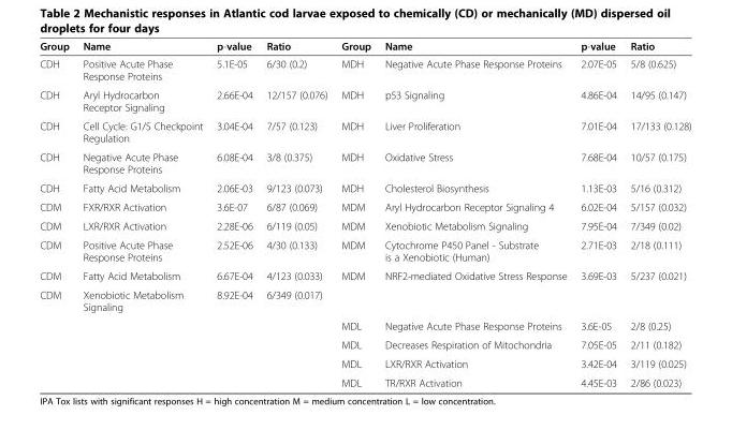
<table><thead><tr><td>Group</td><td>Name</td><td>p-value</td><td>Ratio</td><td>Group</td><td>Name</td><td>p-value</td><td>Ratio</td></tr></thead><tbody><tr><td>CDH</td><td>Positive Acute Phase Response Proteins</td><td>5.1E-05</td><td>6/30 (0.2)</td><td>MDH</td><td>Negative Acute Phase Response Proteins</td><td>2.07E-05</td><td>5/8 (0.625)</td></tr><tr><td>CDH</td><td>Aryl Hydrocarbon Receptor Signaling</td><td>2.66E-04</td><td>12/157 (0.076)</td><td>MDH</td><td>p53 Signaling</td><td>4.86E-04</td><td>14/95 (0.147)</td></tr><tr><td>CDH</td><td>Cell Cycle: G1/S Checkpoint Regulation</td><td>3.04E-04</td><td>7/57 (0.123)</td><td>MDH</td><td>Liver Proliferation</td><td>7.01E-04</td><td>17/133 (0.128)</td></tr><tr><td>CDH</td><td>Negative Acute Phase Response Proteins</td><td>6.08E-04</td><td>3/8 (0.375)</td><td>MDH</td><td>Oxidative Stress</td><td>7.68E-04</td><td>10/57 (0.175)</td></tr><tr><td>CDH</td><td>Fatty Acid Metabolism</td><td>2.06E-03</td><td>9/123 (0.073)</td><td>MDH</td><td>Cholesterol Biosynthesis</td><td>1.13E-03</td><td>5/16 (0.312)</td></tr><tr><td>CDM</td><td>FXR/RXR Activation</td><td>3.6E-07</td><td>6/87 (0.069)</td><td>MDM</td><td>Aryl Hydrocarbon Receptor Signaling 4</td><td>6.02E-04</td><td>5/157 (0.032)</td></tr><tr><td>CDM</td><td>LXR/RXR Activation</td><td>2.28E-06</td><td>6/119 (0.05)</td><td>MDM</td><td>Xenobiotic Metabolism Signaling</td><td>7.95E-04</td><td>7/349 (0.02)</td></tr><tr><td>CDM</td><td>Positive Acute Phase Response Proteins</td><td>2.52E-06</td><td>4/30 (0.133)</td><td>MDM</td><td>Cytochrome P450 Panel - Substrate is a Xenobiotic (Human)</td><td>2.71E-03</td><td>2/18 (0.111)</td></tr><tr><td>CDM</td><td>Fatty Acid Metabolism</td><td>6.67E-04</td><td>4/123 (0.033)</td><td>MDM</td><td>NRF2-mediated Oxidative Stress Response</td><td>3.69E-03</td><td>5/237 (0.021)</td></tr><tr><td rowspan="5">CDM</td><td>Xenobiotic Metabolism Signaling</td><td>8.92E-04</td><td>6/349 (0.017)</td><td></td><td></td><td></td><td></td></tr><tr><td></td><td></td><td></td><td>MDL</td><td>Negative Acute Phase Response Proteins</td><td>3.6E-05</td><td>2/8 (0.25)</td></tr><tr><td></td><td></td><td></td><td>MDL</td><td>Decreases Respiration of Mitochondria</td><td>7.05E-05</td><td>2/11 (0.182)</td></tr><tr><td></td><td></td><td></td><td>MDL</td><td>LXR/RXR Activation</td><td>3.42E-04</td><td>3/119 (0.025)</td></tr><tr><td></td><td></td><td></td><td>MDL</td><td>TR/RXR Activation</td><td>4.45E-03</td><td>2/86 (0.023)</td></tr></tbody></table>